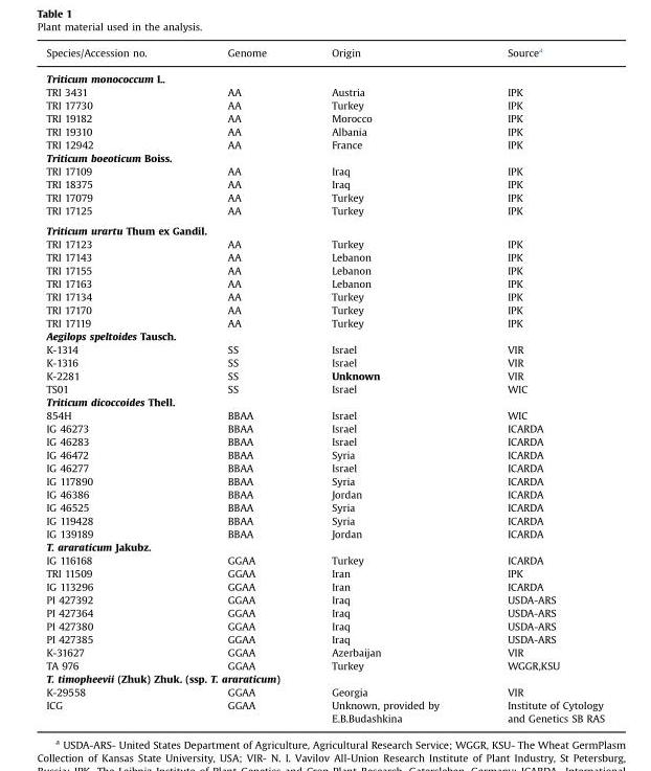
<table><thead><tr><td>Species/Accession no.</td><td>Genome</td><td>Origin</td><td>Source<sup>a</sup></td></tr></thead><tbody><tr><td colspan="4">Triticum monococcum L.</td></tr><tr><td>TRI 3431</td><td>AA</td><td>Austria</td><td>IPK</td></tr><tr><td>TRI 17730</td><td>AA</td><td>Turkey</td><td>IPK</td></tr><tr><td>TRI 19182</td><td>AA</td><td>Morocco</td><td>IPK</td></tr><tr><td>TRI 19310</td><td>AA</td><td>Albania</td><td>IPK</td></tr><tr><td>TRI 12942</td><td>AA</td><td>France</td><td>IPK</td></tr><tr><td colspan="4">Triticum boeoticum Boiss.</td></tr><tr><td>TRI 17109</td><td>AA</td><td>Iraq</td><td>IPK</td></tr><tr><td>TRI 18375</td><td>AA</td><td>Iraq</td><td>IPK</td></tr><tr><td>TRI 17079</td><td>AA</td><td>Turkey</td><td>IPK</td></tr><tr><td>TRI 17125</td><td>AA</td><td>Turkey</td><td>IPK</td></tr><tr><td colspan="4">Triticum urartu Thum ex Gandil.</td></tr><tr><td>TRI 17123</td><td>AA</td><td>Turkey</td><td>IPK</td></tr><tr><td>TRI 17143</td><td>AA</td><td>Lebanon</td><td>IPK</td></tr><tr><td>TRI 17155</td><td>AA</td><td>Lebanon</td><td>IPK</td></tr><tr><td>TRI 17163</td><td>AA</td><td>Lebanon</td><td>IPK</td></tr><tr><td>TRI 17134</td><td>AA</td><td>Turkey</td><td>IPK</td></tr><tr><td>TRI 17170</td><td>AA</td><td>Turkey</td><td>IPK</td></tr><tr><td>TRI 17119</td><td>AA</td><td>Turkey</td><td>IPK</td></tr><tr><td colspan="4">Aegilops speltoides Tausch.</td></tr><tr><td>K-1314</td><td>SS</td><td>Israel</td><td>VIR</td></tr><tr><td>K-1316</td><td>SS</td><td>Israel</td><td>VIR</td></tr><tr><td>K-2281</td><td>SS</td><td>Unknown</td><td>VIR</td></tr><tr><td>TS01</td><td>SS</td><td>Israel</td><td>WIC</td></tr><tr><td colspan="4">Triticum dicoccoides Thell.</td></tr><tr><td>854H</td><td>BBAA</td><td>Israel</td><td>WIC</td></tr><tr><td>IG 46273</td><td>BBAA</td><td>Israel</td><td>ICARDA</td></tr><tr><td>IG 46283</td><td>BBAA</td><td>Israel</td><td>ICARDA</td></tr><tr><td>IG 46472</td><td>BBAA</td><td>Syria</td><td>ICARDA</td></tr><tr><td>IG 46277</td><td>BBAA</td><td>Israel</td><td>ICARDA</td></tr><tr><td>IG 117890</td><td>BBAA</td><td>Syria</td><td>ICARDA</td></tr><tr><td>IG 46386</td><td>BBAA</td><td>Jordan</td><td>ICARDA</td></tr><tr><td>IG 46525</td><td>BBAA</td><td>Syria</td><td>ICARDA</td></tr><tr><td>IG 119428</td><td>BBAA</td><td>Syria</td><td>ICARDA</td></tr><tr><td>IG 139189</td><td>BBAA</td><td>Jordan</td><td>ICARDA</td></tr><tr><td colspan="4">T. araraticum Jakubz.</td></tr><tr><td>IG 116168</td><td>GGAA</td><td>Turkey</td><td>ICARDA</td></tr><tr><td>TRI 11509</td><td>GGAA</td><td>Iran</td><td>IPK</td></tr><tr><td>IG 113296</td><td>GGAA</td><td>Iran</td><td>ICARDA</td></tr><tr><td>PI 427392</td><td>GGAA</td><td>Iraq</td><td>USDA-ARS</td></tr><tr><td>PI 427364</td><td>GGAA</td><td>Iraq</td><td>USDA-ARS</td></tr><tr><td>PI 427380</td><td>GGAA</td><td>Iraq</td><td>USDA-ARS</td></tr><tr><td>PI 427385</td><td>GGAA</td><td>Iraq</td><td>USDA-ARS</td></tr><tr><td>K-31627</td><td>GGAA</td><td>Azerbaijan</td><td>VIR</td></tr><tr><td>TA 976</td><td>GGAA</td><td>Turkey</td><td>WGGR,KSU</td></tr><tr><td colspan="4">T. timopheevii (Zhuk) Zhuk. (ssp. T. araraticum)</td></tr><tr><td>K-29558</td><td>GGAA</td><td>Georgia</td><td>VIR</td></tr><tr><td>ICG</td><td>GGAA</td><td>Unknown, provided by E.B.Budashkina</td><td>Institute of Cytology and Genetics SB RAS</td></tr></tbody></table>